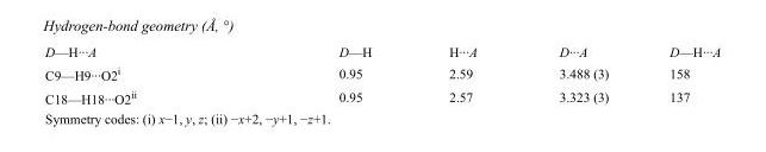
<table><tbody><tr><td>D—H···A</td><td>D—H</td><td>H···A</td><td>D···A</td><td>D—H···A</td></tr><tr><td>C9—H9···O2<sup>i</sup></td><td>0.95</td><td>2.59</td><td>3.488 (3)</td><td>158</td></tr><tr><td>C18—H18···O2<sup>ii</sup></td><td>0.95</td><td>2.57</td><td>3.323 (3)</td><td>137</td></tr></tbody></table>